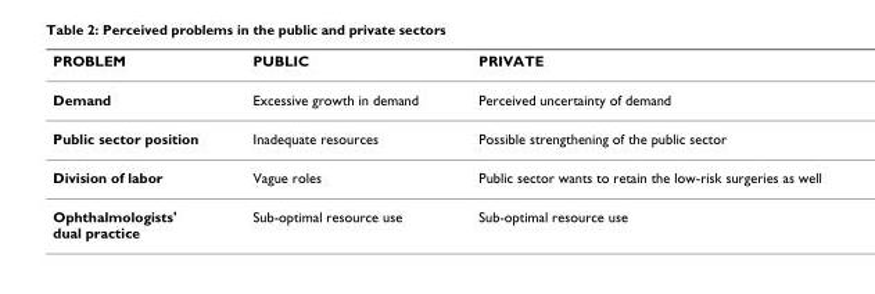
<table><thead><tr><td>PROBLEM</td><td>PUBLIC</td><td>PRIVATE</td></tr></thead><tbody><tr><td>Demand</td><td>Excessive growth in demand</td><td>Perceived uncertainty of demand</td></tr><tr><td>Public sector position</td><td>Inadequate resources</td><td>Possible strengthening of the public sector</td></tr><tr><td>Division of labor</td><td>Vague roles</td><td>Public sector wants to retain the low-risk surgeries as well</td></tr><tr><td>Ophthalmologists&#x27; dual practice</td><td>Sub-optimal resource use</td><td>Sub-optimal resource use</td></tr></tbody></table>